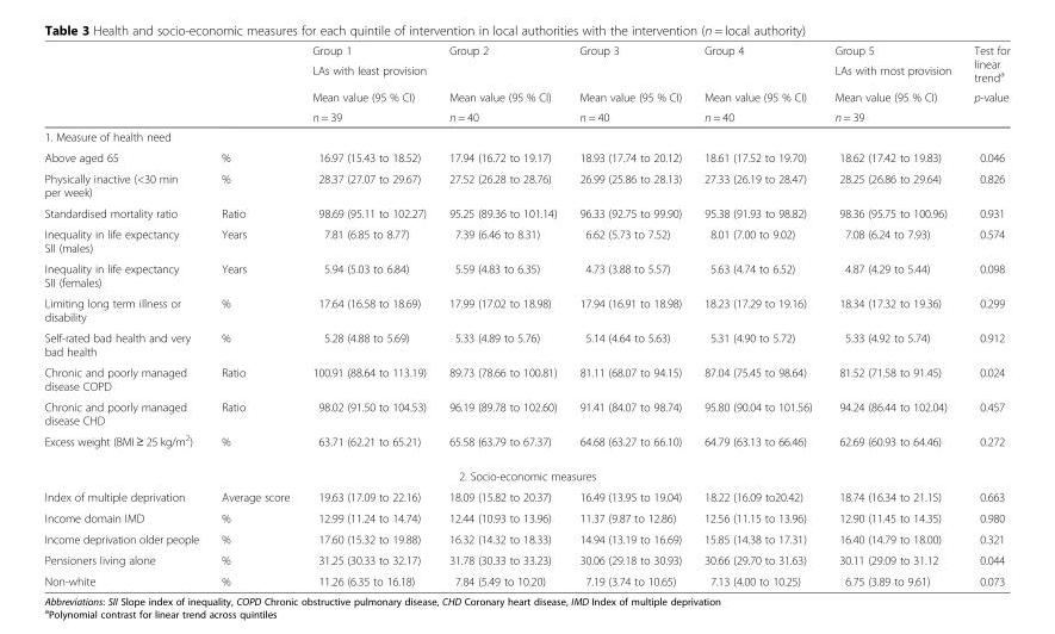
<table><thead><tr><td rowspan="4"></td><td rowspan="4"></td><td rowspan="4">Group 1 LAs with least provision Mean value (95 % CI) n = 39</td><td rowspan="4">Group 2 Mean value (95 % CI) n = 40</td><td rowspan="4">Group 3 Mean value (95 % CI) n = 40</td><td rowspan="4">Group 4 Mean value (95 % CI) n = 40</td><td rowspan="4">Group 5 LAs with most provision Mean value (95 % CI) n = 39</td><td rowspan="4">Test for linear trend<sup>a</sup> p-value</td></tr><tr></tr><tr></tr><tr></tr></thead><tbody><tr><td colspan="8">1. Measure of health need</td></tr><tr><td>Above aged 65</td><td>%</td><td>16.97 (15.43 to 18.52)</td><td>17.94 (16.72 to 19.17)</td><td>18.93 (17.74 to 20.12)</td><td>18.61 (17.52 to 19.70)</td><td>18.62 (17.42 to 19.83)</td><td>0.046</td></tr><tr><td>Physically inactive (&lt;30 min per week)</td><td>%</td><td>28.37 (27.07 to 29.67)</td><td>27.52 (26.28 to 28.76)</td><td>26.99 (25.86 to 28.13)</td><td>27.33 (26.19 to 28.47)</td><td>28.25 (26.86 to 29.64)</td><td>0.826</td></tr><tr><td>Standardised mortality ratio</td><td>Ratio</td><td>98.69 (95.11 to 102.27)</td><td>95.25 (89.36 to 101.14)</td><td>96.33 (92.75 to 99.90)</td><td>95.38 (91.93 to 98.82)</td><td>98.36 (95.75 to 100.96)</td><td>0.931</td></tr><tr><td>Inequality in life expectancy SII (males)</td><td>Years</td><td>7.81 (6.85 to 8.77)</td><td>7.39 (6.46 to 8.31)</td><td>6.62 (5.73 to 7.52)</td><td>8.01 (7.00 to 9.02)</td><td>7.08 (6.24 to 7.93)</td><td>0.574</td></tr><tr><td>Inequality in life expectancy SII (females)</td><td>Years</td><td>5.94 (5.03 to 6.84)</td><td>5.59 (4.83 to 6.35)</td><td>4.73 (3.88 to 5.57)</td><td>5.63 (4.74 to 6.52)</td><td>4.87 (4.29 to 5.44)</td><td>0.098</td></tr><tr><td>Limiting long term illness or disability</td><td>%</td><td>17.64 (16.58 to 18.69)</td><td>17.99 (17.02 to 18.98)</td><td>17.94 (16.91 to 18.98)</td><td>18.23 (17.29 to 19.16)</td><td>18.34 (17.32 to 19.36)</td><td>0.299</td></tr><tr><td>Self-rated bad health and very bad health</td><td>%</td><td>5.28 (4.88 to 5.69)</td><td>5.33 (4.89 to 5.76)</td><td>5.14 (4.64 to 5.63)</td><td>5.31 (4.90 to 5.72)</td><td>5.33 (4.92 to 5.74)</td><td>0.912</td></tr><tr><td>Chronic and poorly managed disease COPD</td><td>Ratio</td><td>100.91 (88.64 to 113.19)</td><td>89.73 (78.66 to 100.81)</td><td>81.11 (68.07 to 94.15)</td><td>87.04 (75.45 to 98.64)</td><td>81.52 (71.58 to 91.45)</td><td>0.024</td></tr><tr><td>Chronic and poorly managed disease CHD</td><td>Ratio</td><td>98.02 (91.50 to 104.53)</td><td>96.19 (89.78 to 102.60)</td><td>91.41 (84.07 to 98.74)</td><td>95.80 (90.04 to 101.56)</td><td>94.24 (86.44 to 102.04)</td><td>0.457</td></tr><tr><td>Excess weight (BMI ≥ 25 kg/m<sup>2</sup>)</td><td>%</td><td>63.71 (62.21 to 65.21)</td><td>65.58 (63.79 to 67.37)</td><td>64.68 (63.27 to 66.10)</td><td>64.79 (63.13 to 66.46)</td><td>62.69 (60.93 to 64.46)</td><td>0.272</td></tr><tr><td colspan="8">2. Socio-economic measures</td></tr><tr><td>Index of multiple deprivation</td><td>Average score</td><td>19.63 (17.09 to 22.16)</td><td>18.09 (15.82 to 20.37)</td><td>16.49 (13.95 to 19.04)</td><td>18.22 (16.09 to20.42)</td><td>18.74 (16.34 to 21.15)</td><td>0.663</td></tr><tr><td>Income domain IMD</td><td>%</td><td>12.99 (11.24 to 14.74)</td><td>12.44 (10.93 to 13.96)</td><td>11.37 (9.87 to 12.86)</td><td>12.56 (11.15 to 13.96)</td><td>12.90 (11.45 to 14.35)</td><td>0.980</td></tr><tr><td>Income deprivation older people</td><td>%</td><td>17.60 (15.32 to 19.88)</td><td>16.32 (14.32 to 18.33)</td><td>14.94 (13.19 to 16.69)</td><td>15.85 (14.38 to 17.31)</td><td>16.40 (14.79 to 18.00)</td><td>0.321</td></tr><tr><td>Pensioners living alone</td><td>%</td><td>31.25 (30.33 to 32.17)</td><td>31.78 (30.33 to 33.23)</td><td>30.06 (29.18 to 30.93)</td><td>30.66 (29.70 to 31.63)</td><td>30.11 (29.09 to 31.12</td><td>0.044</td></tr><tr><td>Non-white</td><td>%</td><td>11.26 (6.35 to 16.18)</td><td>7.84 (5.49 to 10.20)</td><td>7.19 (3.74 to 10.65)</td><td>7.13 (4.00 to 10.25)</td><td>6.75 (3.89 to 9.61)</td><td>0.073</td></tr></tbody></table>